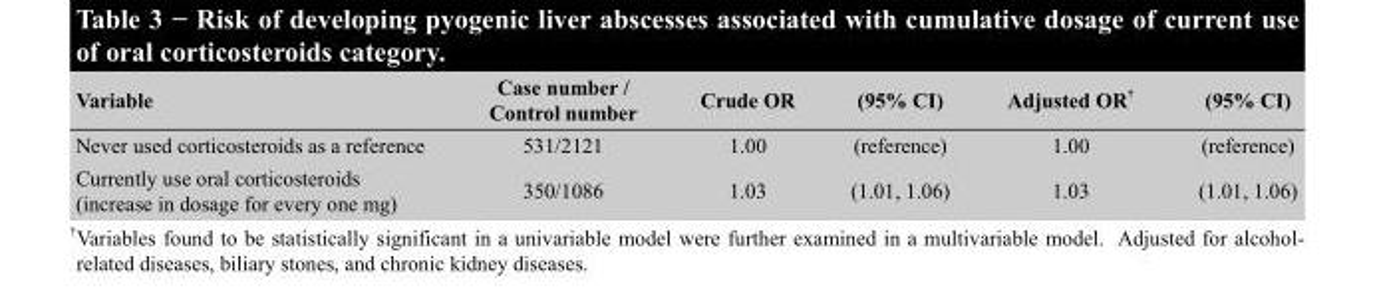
<table><thead><tr><td>Variable</td><td>Case number / Control number</td><td>Crude OR</td><td>(95% CI)</td><td>Adjusted OR †</td><td>(95% CI)</td></tr></thead><tbody><tr><td>Never used corticosteroids as a reference</td><td>531/2121</td><td>1.00</td><td>(reference)</td><td>1.00</td><td>(reference)</td></tr><tr><td>Currently use oral corticosteroids (increase in dosage for every one mg)</td><td>350/1086</td><td>1.03</td><td>(1.01, 1.06)</td><td>1.03</td><td>(1.01, 1.06)</td></tr></tbody></table>